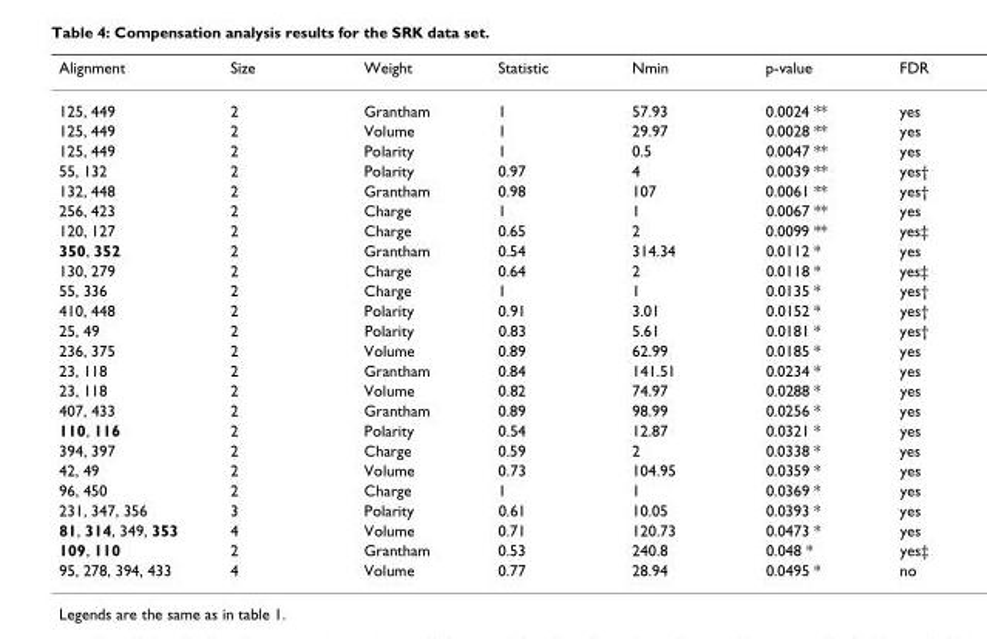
<table><thead><tr><td>Alignment</td><td>Size</td><td>Weight</td><td>Statistic</td><td>Nmin</td><td>p-value</td><td>FDR</td></tr></thead><tbody><tr><td>125, 449</td><td>2</td><td>Grantham</td><td>1</td><td>57.93</td><td>0.0024 **</td><td>yes</td></tr><tr><td>125, 449</td><td>2</td><td>Volume</td><td>1</td><td>29.97</td><td>0.0028 **</td><td>yes</td></tr><tr><td>125, 449</td><td>2</td><td>Polarity</td><td>1</td><td>0.5</td><td>0.0047 **</td><td>yes</td></tr><tr><td>55, 132</td><td>2</td><td>Polarity</td><td>0.97</td><td>4</td><td>0.0039 **</td><td>yes†</td></tr><tr><td>132, 448</td><td>2</td><td>Grantham</td><td>0.98</td><td>107</td><td>0.0061 **</td><td>yes†</td></tr><tr><td>256, 423</td><td>2</td><td>Charge</td><td>1</td><td>1</td><td>0.0067 **</td><td>yes</td></tr><tr><td>120, 127</td><td>2</td><td>Charge</td><td>0.65</td><td>2</td><td>0.0099 **</td><td>yes‡</td></tr><tr><td>350, 352</td><td>2</td><td>Grantham</td><td>0.54</td><td>314.34</td><td>0.0112 *</td><td>yes</td></tr><tr><td>130, 279</td><td>2</td><td>Charge</td><td>0.64</td><td>2</td><td>0.0118 *</td><td>yes‡</td></tr><tr><td>55, 336</td><td>2</td><td>Charge</td><td>1</td><td>1</td><td>0.0135 *</td><td>yes†</td></tr><tr><td>410, 448</td><td>2</td><td>Polarity</td><td>0.91</td><td>3.01</td><td>0.0152 *</td><td>yes†</td></tr><tr><td>25, 49</td><td>2</td><td>Polarity</td><td>0.83</td><td>5.61</td><td>0.0181 *</td><td>yes†</td></tr><tr><td>236, 375</td><td>2</td><td>Volume</td><td>0.89</td><td>62.99</td><td>0.0185 *</td><td>yes</td></tr><tr><td>23, 118</td><td>2</td><td>Grantham</td><td>0.84</td><td>141.51</td><td>0.0234 *</td><td>yes</td></tr><tr><td>23, 118</td><td>2</td><td>Volume</td><td>0.82</td><td>74.97</td><td>0.0288 *</td><td>yes</td></tr><tr><td>407, 433</td><td>2</td><td>Grantham</td><td>0.89</td><td>98.99</td><td>0.0256 *</td><td>yes</td></tr><tr><td>110, 116</td><td>2</td><td>Polarity</td><td>0.54</td><td>12.87</td><td>0.0321 *</td><td>yes</td></tr><tr><td>394, 397</td><td>2</td><td>Charge</td><td>0.59</td><td>2</td><td>0.0338 *</td><td>yes</td></tr><tr><td>42, 49</td><td>2</td><td>Volume</td><td>0.73</td><td>104.95</td><td>0.0359 *</td><td>yes</td></tr><tr><td>96, 450</td><td>2</td><td>Charge</td><td>1</td><td>1</td><td>0.0369 *</td><td>yes</td></tr><tr><td>231, 347, 356</td><td>3</td><td>Polarity</td><td>0.61</td><td>10.05</td><td>0.0393 *</td><td>yes</td></tr><tr><td>81, 314, 349, 353</td><td>4</td><td>Volume</td><td>0.71</td><td>120.73</td><td>0.0473 *</td><td>yes</td></tr><tr><td>109, 110</td><td>2</td><td>Grantham</td><td>0.53</td><td>240.8</td><td>0.048 *</td><td>yes‡</td></tr><tr><td>95, 278, 394, 433</td><td>4</td><td>Volume</td><td>0.77</td><td>28.94</td><td>0.0495 *</td><td>no</td></tr></tbody></table>